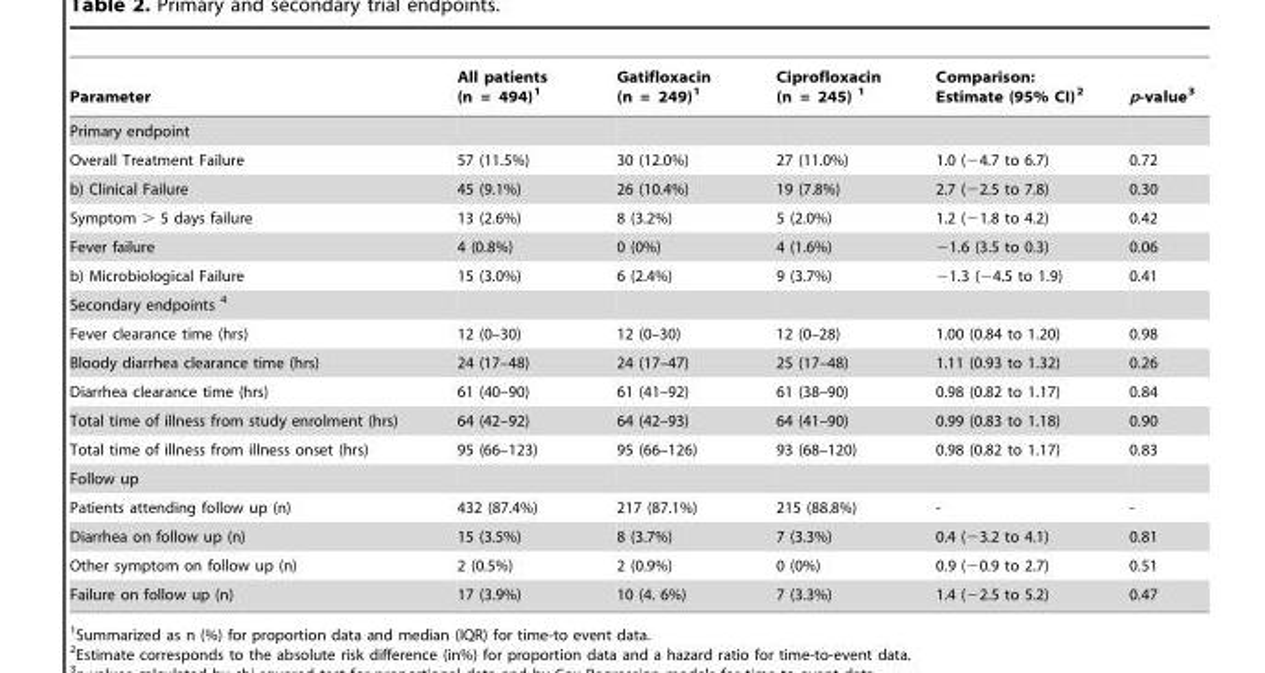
<table><thead><tr><td>Parameter</td><td>All patients (n = 494)1</td><td>Gatifloxacin (n = 249)1</td><td>Ciprofloxacin (n = 245) 1</td><td>Comparison: Estimate (95% CI)2</td><td>p-value3</td></tr></thead><tbody><tr><td colspan="6">Primary endpoint</td></tr><tr><td>Overall Treatment Failure</td><td>57 (11.5%)</td><td>30 (12.0%)</td><td>27 (11.0%)</td><td>1.0 (−4.7 to 6.7)</td><td>0.72</td></tr><tr><td>b) Clinical Failure</td><td>45 (9.1%)</td><td>26 (10.4%)</td><td>19 (7.8%)</td><td>2.7 (−2.5 to 7.8)</td><td>0.30</td></tr><tr><td>Symptom &gt; 5 days failure</td><td>13 (2.6%)</td><td>8 (3.2%)</td><td>5 (2.0%)</td><td>1.2 (−1.8 to 4.2)</td><td>0.42</td></tr><tr><td>Fever failure</td><td>4 (0.8%)</td><td>0 (0%)</td><td>4 (1.6%)</td><td>−1.6 (3.5 to 0.3)</td><td>0.06</td></tr><tr><td>b) Microbiological Failure</td><td>15 (3.0%)</td><td>6 (2.4%)</td><td>9 (3.7%)</td><td>−1.3 (−4.5 to 1.9)</td><td>0.41</td></tr><tr><td colspan="6">Secondary endpoints 4</td></tr><tr><td>Fever clearance time (hrs)</td><td>12 (0–30)</td><td>12 (0–30)</td><td>12 (0–28)</td><td>1.00 (0.84 to 1.20)</td><td>0.98</td></tr><tr><td>Bloody diarrhea clearance time (hrs)</td><td>24 (17–48)</td><td>24 (17–47)</td><td>25 (17–48)</td><td>1.11 (0.93 to 1.32)</td><td>0.26</td></tr><tr><td>Diarrhea clearance time (hrs)</td><td>61 (40–90)</td><td>61 (41–92)</td><td>61 (38–90)</td><td>0.98 (0.82 to 1.17)</td><td>0.84</td></tr><tr><td>Total time of illness from study enrolment (hrs)</td><td>64 (42–92)</td><td>64 (42–93)</td><td>64 (41–90)</td><td>0.99 (0.83 to 1.18)</td><td>0.90</td></tr><tr><td>Total time of illness from illness onset (hrs)</td><td>95 (66–123)</td><td>95 (66–126)</td><td>93 (68–120)</td><td>0.98 (0.82 to 1.17)</td><td>0.83</td></tr><tr><td colspan="6">Follow up</td></tr><tr><td>Patients attending follow up (n)</td><td>432 (87.4%)</td><td>217 (87.1%)</td><td>215 (88.8%)</td><td>-</td><td>-</td></tr><tr><td>Diarrhea on follow up (n)</td><td>15 (3.5%)</td><td>8 (3.7%)</td><td>7 (3.3%)</td><td>0.4 (−3.2 to 4.1)</td><td>0.81</td></tr><tr><td>Other symptom on follow up (n)</td><td>2 (0.5%)</td><td>2 (0.9%)</td><td>0 (0%)</td><td>0.9 (−0.9 to 2.7)</td><td>0.51</td></tr><tr><td>Failure on follow up (n)</td><td>17 (3.9%)</td><td>10 (4. 6%)</td><td>7 (3.3%)</td><td>1.4 (−2.5 to 5.2)</td><td>0.47</td></tr></tbody></table>